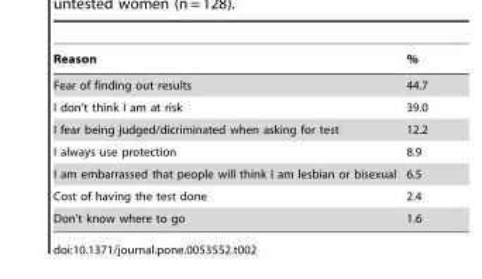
<table><thead><tr><td>Reason</td><td>%</td></tr></thead><tbody><tr><td>Fear of finding out results</td><td>44.7</td></tr><tr><td>I don’t think I am at risk</td><td>39.0</td></tr><tr><td>I fear being judged/dicriminated when asking for test</td><td>12.2</td></tr><tr><td>I always use protection</td><td>8.9</td></tr><tr><td>I am embarrassed that people will think I am lesbian or bisexual</td><td>6.5</td></tr><tr><td>Cost of having the test done</td><td>2.4</td></tr><tr><td>Don’t know where to go</td><td>1.6</td></tr></tbody></table>